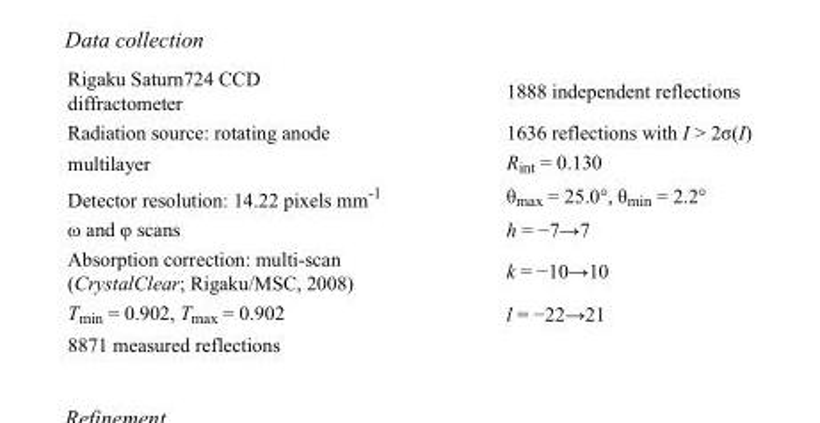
<table><tbody><tr><td>Rigaku Saturn724 CCD diffractometer</td><td>1888 independent reflections</td></tr><tr><td>Radiation source: rotating anode</td><td>1636 reflections with I &gt; 2σ(I)</td></tr><tr><td>multilayer</td><td>R<sub>int</sub> = 0.130</td></tr><tr><td>Detector resolution: 14.22 pixels mm<sup>-1</sup></td><td>θ<sub>max</sub> = 25.0°, θ<sub>min</sub> = 2.2°</td></tr><tr><td>ω and φ scans</td><td>h = −7→7</td></tr><tr><td>Absorption correction: multi-scan (CrystalClear; Rigaku/MSC, 2008)</td><td>k = −10→10</td></tr><tr><td>T<sub>min</sub> = 0.902, T<sub>max</sub> = 0.902</td><td>l = −22→21</td></tr><tr><td>8871 measured reflections</td><td></td></tr></tbody></table>